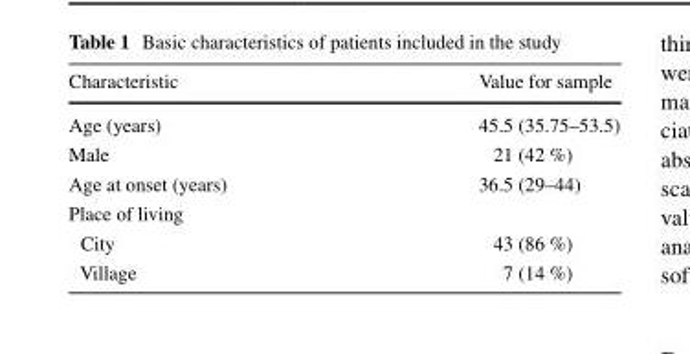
<table><thead><tr><td>Characteristic</td><td>Value for sample</td></tr></thead><tbody><tr><td>Age (years)</td><td>45.5 (35.75–53.5)</td></tr><tr><td>Male</td><td>21 (42 %)</td></tr><tr><td>Age at onset (years)</td><td>36.5 (29–44)</td></tr><tr><td colspan="2">Place of living</td></tr><tr><td>City</td><td>43 (86 %)</td></tr><tr><td>Village</td><td>7 (14 %)</td></tr></tbody></table>